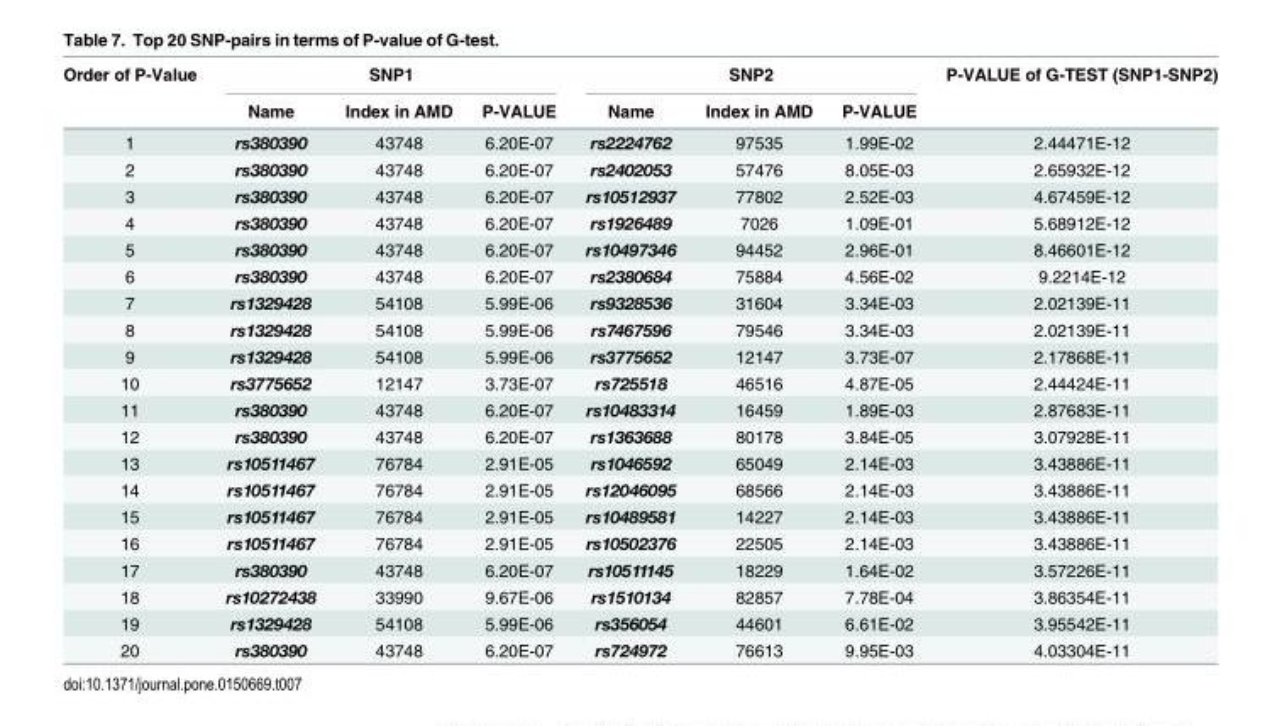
<table><thead><tr><td rowspan="2">Order of P-Value</td><td colspan="3">SNP1</td><td colspan="3">SNP2</td><td rowspan="2">P-VALUE of G-TEST (SNP1-SNP2)</td></tr><tr><td>Name</td><td>Index in AMD</td><td>P-VALUE</td><td>Name</td><td>Index in AMD</td><td>P-VALUE</td></tr></thead><tbody><tr><td>1</td><td>rs380390</td><td>43748</td><td>6.20E-07</td><td>rs2224762</td><td>97535</td><td>1.99E-02</td><td>2.44471E-12</td></tr><tr><td>2</td><td>rs380390</td><td>43748</td><td>6.20E-07</td><td>rs2402053</td><td>57476</td><td>8.05E-03</td><td>2.65932E-12</td></tr><tr><td>3</td><td>rs380390</td><td>43748</td><td>6.20E-07</td><td>rs10512937</td><td>77802</td><td>2.52E-03</td><td>4.67459E-12</td></tr><tr><td>4</td><td>rs380390</td><td>43748</td><td>6.20E-07</td><td>rs1926489</td><td>7026</td><td>1.09E-01</td><td>5.68912E-12</td></tr><tr><td>5</td><td>rs380390</td><td>43748</td><td>6.20E-07</td><td>rs10497346</td><td>94452</td><td>2.96E-01</td><td>8.46601E-12</td></tr><tr><td>6</td><td>rs380390</td><td>43748</td><td>6.20E-07</td><td>rs2380684</td><td>75884</td><td>4.56E-02</td><td>9.2214E-12</td></tr><tr><td>7</td><td>rs1329428</td><td>54108</td><td>5.99E-06</td><td>rs9328536</td><td>31604</td><td>3.34E-03</td><td>2.02139E-11</td></tr><tr><td>8</td><td>rs1329428</td><td>54108</td><td>5.99E-06</td><td>rs7467596</td><td>79546</td><td>3.34E-03</td><td>2.02139E-11</td></tr><tr><td>9</td><td>rs1329428</td><td>54108</td><td>5.99E-06</td><td>rs3775652</td><td>12147</td><td>3.73E-07</td><td>2.17868E-11</td></tr><tr><td>10</td><td>rs3775652</td><td>12147</td><td>3.73E-07</td><td>rs725518</td><td>46516</td><td>4.87E-05</td><td>2.44424E-11</td></tr><tr><td>11</td><td>rs380390</td><td>43748</td><td>6.20E-07</td><td>rs10483314</td><td>16459</td><td>1.89E-03</td><td>2.87683E-11</td></tr><tr><td>12</td><td>rs380390</td><td>43748</td><td>6.20E-07</td><td>rs1363688</td><td>80178</td><td>3.84E-05</td><td>3.07928E-11</td></tr><tr><td>13</td><td>rs10511467</td><td>76784</td><td>2.91E-05</td><td>rs1046592</td><td>65049</td><td>2.14E-03</td><td>3.43886E-11</td></tr><tr><td>14</td><td>rs10511467</td><td>76784</td><td>2.91E-05</td><td>rs12046095</td><td>68566</td><td>2.14E-03</td><td>3.43886E-11</td></tr><tr><td>15</td><td>rs10511467</td><td>76784</td><td>2.91E-05</td><td>rs10489581</td><td>14227</td><td>2.14E-03</td><td>3.43886E-11</td></tr><tr><td>16</td><td>rs10511467</td><td>76784</td><td>2.91E-05</td><td>rs10502376</td><td>22505</td><td>2.14E-03</td><td>3.43886E-11</td></tr><tr><td>17</td><td>rs380390</td><td>43748</td><td>6.20E-07</td><td>rs10511145</td><td>18229</td><td>1.64E-02</td><td>3.57226E-11</td></tr><tr><td>18</td><td>rs10272438</td><td>33990</td><td>9.67E-06</td><td>rs1510134</td><td>82857</td><td>7.78E-04</td><td>3.86354E-11</td></tr><tr><td>19</td><td>rs1329428</td><td>54108</td><td>5.99E-06</td><td>rs356054</td><td>44601</td><td>6.61E-02</td><td>3.95542E-11</td></tr><tr><td>20</td><td>rs380390</td><td>43748</td><td>6.20E-07</td><td>rs724972</td><td>76613</td><td>9.95E-03</td><td>4.03304E-11</td></tr></tbody></table>